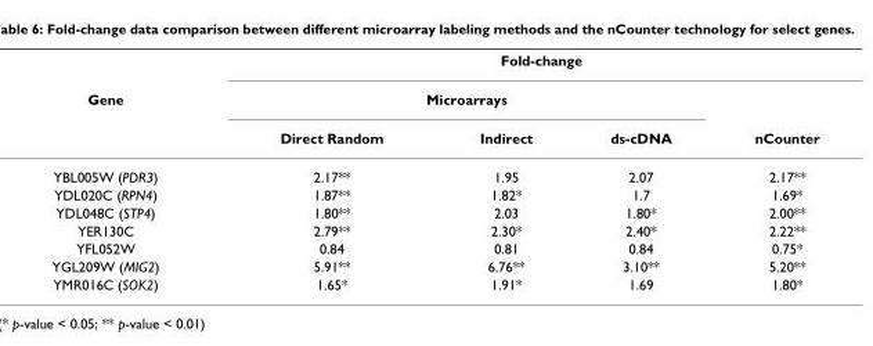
<table><thead><tr><td rowspan="3">Gene</td><td colspan="4">Fold-change</td></tr><tr><td colspan="3">Microarrays</td><td rowspan="2">nCounter</td></tr><tr><td>Direct Random</td><td>Indirect</td><td>ds-cDNA</td></tr></thead><tbody><tr><td>YBL005W (PDR3)</td><td>2.17**</td><td>1.95</td><td>2.07</td><td>2.17**</td></tr><tr><td>YDL020C (RPN4)</td><td>1.87**</td><td>1.82*</td><td>1.7</td><td>1.69*</td></tr><tr><td>YDL048C (STP4)</td><td>1.80**</td><td>2.03</td><td>1.80*</td><td>2.00**</td></tr><tr><td>YER130C</td><td>2.79**</td><td>2.30*</td><td>2.40*</td><td>2.22**</td></tr><tr><td>YFL052W</td><td>0.84</td><td>0.81</td><td>0.84</td><td>0.75*</td></tr><tr><td>YGL209W (MIG2)</td><td>5.91**</td><td>6.76**</td><td>3.10**</td><td>5.20**</td></tr><tr><td>YMR016C (SOK2)</td><td>1.65*</td><td>1.91*</td><td>1.69</td><td>1.80*</td></tr></tbody></table>